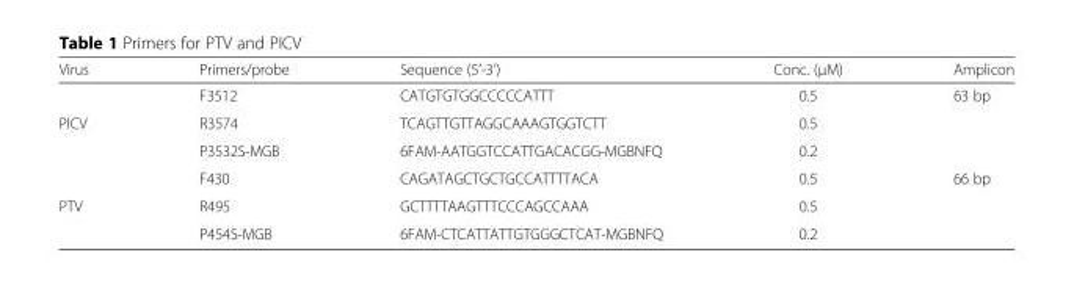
<table><thead><tr><td>Virus</td><td>Primers/probe</td><td>Sequence (5’-3’)</td><td>Conc. (μM)</td><td>Amplicon</td></tr></thead><tbody><tr><td></td><td>F3512</td><td>CATGTGTGGCCCCCATTT</td><td>0.5</td><td>63 bp</td></tr><tr><td rowspan="3">PICV</td><td>R3574</td><td>TCAGTTGTTAGGCAAAGTGGTCTT</td><td>0.5</td><td></td></tr><tr><td>P3532S-MGB</td><td>6FAM-AATGGTCCATTGACACGG-MGBNFQ</td><td>0.2</td><td></td></tr><tr><td>F430</td><td>CAGATAGCTGCTGCCATTTTACA</td><td>0.5</td><td>66 bp</td></tr><tr><td rowspan="2">PTV</td><td>R495</td><td>GCTTTTAAGTTTCCCAGCCAAA</td><td>0.5</td><td></td></tr><tr><td>P454S-MGB</td><td>6FAM-CTCATTATTGTGGGCTCAT-MGBNFQ</td><td>0.2</td><td></td></tr></tbody></table>